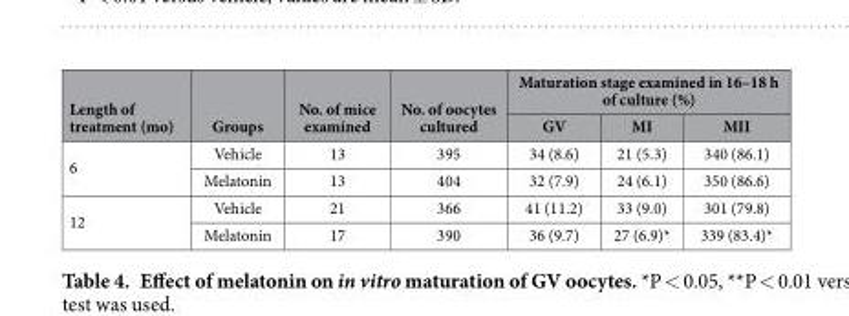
<table><thead><tr><td rowspan="2">Length of treatment (mo)</td><td rowspan="2">Groups</td><td rowspan="2">No. of mice examined</td><td rowspan="2">No. of oocytes cultured</td><td colspan="3">Maturation stage examined in 16–18 h of culture (%)</td></tr><tr><td>GV</td><td>MI</td><td>MII</td></tr></thead><tbody><tr><td rowspan="2">6</td><td>Vehicle</td><td>13</td><td>395</td><td>34 (8.6)</td><td>21 (5.3)</td><td>340 (86.1)</td></tr><tr><td>Melatonin</td><td>13</td><td>404</td><td>32 (7.9)</td><td>24 (6.1)</td><td>350 (86.6)</td></tr><tr><td rowspan="2">12</td><td>Vehicle</td><td>21</td><td>366</td><td>41 (11.2)</td><td>33 (9.0)</td><td>301 (79.8)</td></tr><tr><td>Melatonin</td><td>17</td><td>390</td><td>36 (9.7)</td><td>27 (6.9)*</td><td>339 (83.4)*</td></tr></tbody></table>